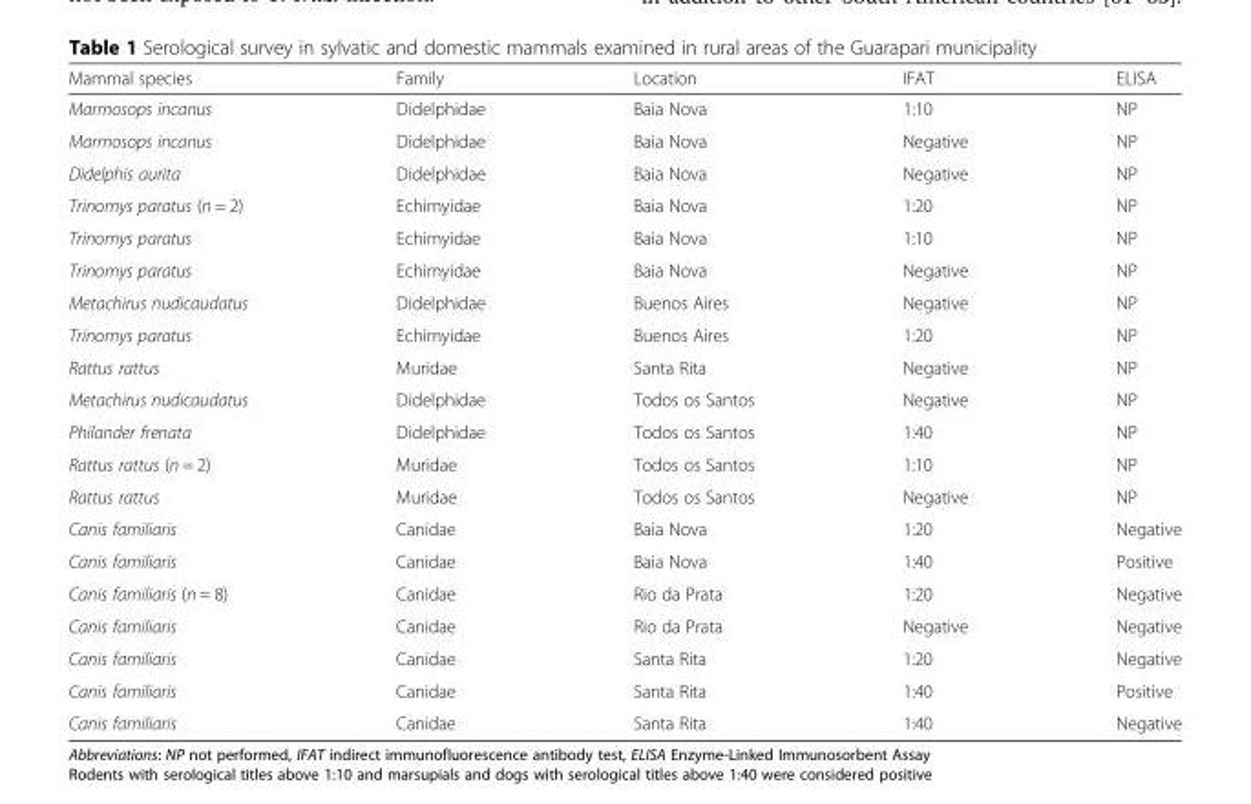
<table><thead><tr><td>Mammal species</td><td>Family</td><td>Location</td><td>IFAT</td><td>ELISA</td></tr></thead><tbody><tr><td>Marmosops incanus</td><td>Didelphidae</td><td>Baia Nova</td><td>1:10</td><td>NP</td></tr><tr><td>Marmosops incanus</td><td>Didelphidae</td><td>Baia Nova</td><td>Negative</td><td>NP</td></tr><tr><td>Didelphis aurita</td><td>Didelphidae</td><td>Baia Nova</td><td>Negative</td><td>NP</td></tr><tr><td>Trinomys paratus (n = 2)</td><td>Echimyidae</td><td>Baia Nova</td><td>1:20</td><td>NP</td></tr><tr><td>Trinomys paratus</td><td>Echimyidae</td><td>Baia Nova</td><td>1:10</td><td>NP</td></tr><tr><td>Trinomys paratus</td><td>Echimyidae</td><td>Baia Nova</td><td>Negative</td><td>NP</td></tr><tr><td>Metachirus nudicaudatus</td><td>Didelphidae</td><td>Buenos Aires</td><td>Negative</td><td>NP</td></tr><tr><td>Trinomys paratus</td><td>Echimyidae</td><td>Buenos Aires</td><td>1:20</td><td>NP</td></tr><tr><td>Rattus rattus</td><td>Muridae</td><td>Santa Rita</td><td>Negative</td><td>NP</td></tr><tr><td>Metachirus nudicaudatus</td><td>Didelphidae</td><td>Todos os Santos</td><td>Negative</td><td>NP</td></tr><tr><td>Philander frenata</td><td>Didelphidae</td><td>Todos os Santos</td><td>1:40</td><td>NP</td></tr><tr><td>Rattus rattus (n = 2)</td><td>Muridae</td><td>Todos os Santos</td><td>1:10</td><td>NP</td></tr><tr><td>Rattus rattus</td><td>Muridae</td><td>Todos os Santos</td><td>Negative</td><td>NP</td></tr><tr><td>Canis familiaris</td><td>Canidae</td><td>Baia Nova</td><td>1:20</td><td>Negative</td></tr><tr><td>Canis familiaris</td><td>Canidae</td><td>Baia Nova</td><td>1:40</td><td>Positive</td></tr><tr><td>Canis familiaris (n = 8)</td><td>Canidae</td><td>Rio da Prata</td><td>1:20</td><td>Negative</td></tr><tr><td>Canis familiaris</td><td>Canidae</td><td>Rio da Prata</td><td>Negative</td><td>Negative</td></tr><tr><td>Canis familiaris</td><td>Canidae</td><td>Santa Rita</td><td>1:20</td><td>Negative</td></tr><tr><td>Canis familiaris</td><td>Canidae</td><td>Santa Rita</td><td>1:40</td><td>Positive</td></tr><tr><td>Canis familiaris</td><td>Canidae</td><td>Santa Rita</td><td>1:40</td><td>Negative</td></tr></tbody></table>